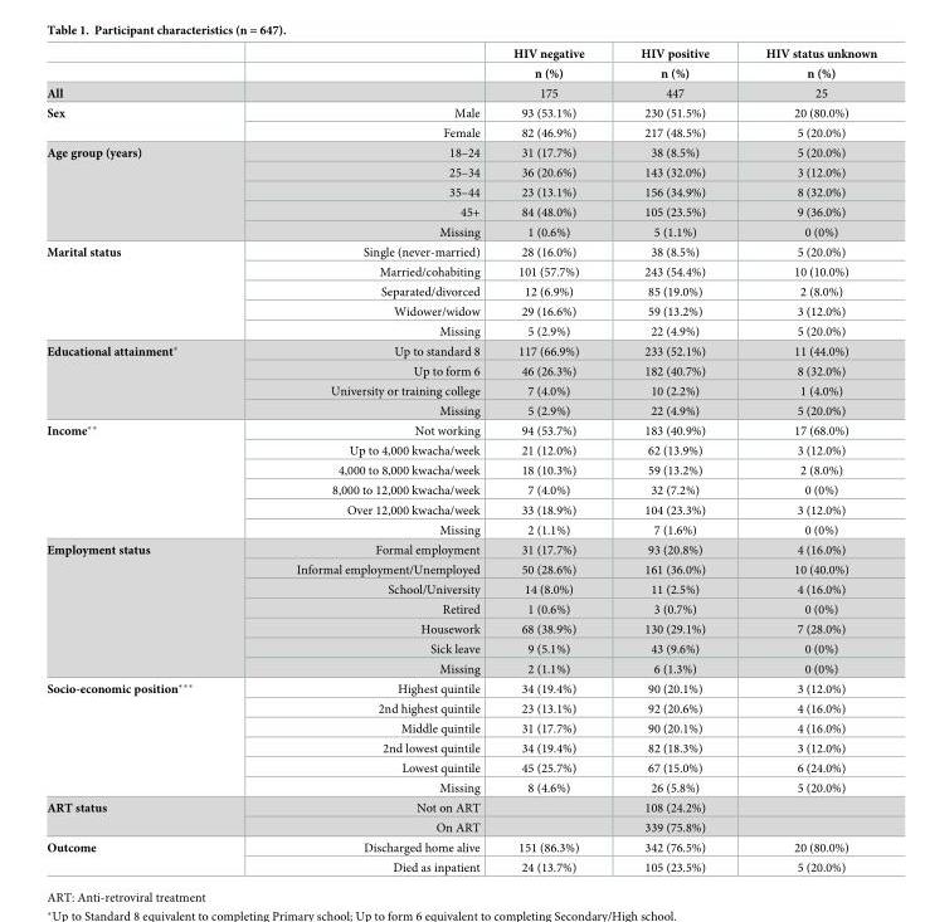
<table><thead><tr><td rowspan="2"></td><td rowspan="2"></td><td rowspan="2">HIV negative n (%)</td><td rowspan="2">HIV positive n (%)</td><td rowspan="2">HIV status unknown n (%)</td></tr><tr></tr></thead><tbody><tr><td>All</td><td></td><td>175</td><td>447</td><td>25</td></tr><tr><td rowspan="2">Sex</td><td>Male</td><td>93 (53.1%)</td><td>230 (51.5%)</td><td>20 (80.0%)</td></tr><tr><td>Female</td><td>82 (46.9%)</td><td>217 (48.5%)</td><td>5 (20.0%)</td></tr><tr><td rowspan="5">Age group (years)</td><td>18–24</td><td>31 (17.7%)</td><td>38 (8.5%)</td><td>5 (20.0%)</td></tr><tr><td>25–34</td><td>36 (20.6%)</td><td>143 (32.0%)</td><td>3 (12.0%)</td></tr><tr><td>35–44</td><td>23 (13.1%)</td><td>156 (34.9%)</td><td>8 (32.0%)</td></tr><tr><td>45+</td><td>84 (48.0%)</td><td>105 (23.5%)</td><td>9 (36.0%)</td></tr><tr><td>Missing</td><td>1 (0.6%)</td><td>5 (1.1%)</td><td>0 (0%)</td></tr><tr><td rowspan="5">Marital status</td><td>Single (never-married)</td><td>28 (16.0%)</td><td>38 (8.5%)</td><td>5 (20.0%)</td></tr><tr><td>Married/cohabiting</td><td>101 (57.7%)</td><td>243 (54.4%)</td><td>10 (10.0%)</td></tr><tr><td>Separated/divorced</td><td>12 (6.9%)</td><td>85 (19.0%)</td><td>2 (8.0%)</td></tr><tr><td>Widower/widow</td><td>29 (16.6%)</td><td>59 (13.2%)</td><td>3 (12.0%)</td></tr><tr><td>Missing</td><td>5 (2.9%)</td><td>22 (4.9%)</td><td>5 (20.0%)</td></tr><tr><td rowspan="4">Educational attainment*</td><td>Up to standard 8</td><td>117 (66.9%)</td><td>233 (52.1%)</td><td>11 (44.0%)</td></tr><tr><td>Up to form 6</td><td>46 (26.3%)</td><td>182 (40.7%)</td><td>8 (32.0%)</td></tr><tr><td>University or training college</td><td>7 (4.0%)</td><td>10 (2.2%)</td><td>1 (4.0%)</td></tr><tr><td>Missing</td><td>5 (2.9%)</td><td>22 (4.9%)</td><td>5 (20.0%)</td></tr><tr><td rowspan="6">Income**</td><td>Not working</td><td>94 (53.7%)</td><td>183 (40.9%)</td><td>17 (68.0%)</td></tr><tr><td>Up to 4,000 kwacha/week</td><td>21 (12.0%)</td><td>62 (13.9%)</td><td>3 (12.0%)</td></tr><tr><td>4,000 to 8,000 kwacha/week</td><td>18 (10.3%)</td><td>59 (13.2%)</td><td>2 (8.0%)</td></tr><tr><td>8,000 to 12,000 kwacha/week</td><td>7 (4.0%)</td><td>32 (7.2%)</td><td>0 (0%)</td></tr><tr><td>Over 12,000 kwacha/week</td><td>33 (18.9%)</td><td>104 (23.3%)</td><td>3 (12.0%)</td></tr><tr><td>Missing</td><td>2 (1.1%)</td><td>7 (1.6%)</td><td>0 (0%)</td></tr><tr><td rowspan="7">Employment status</td><td>Formal employment</td><td>31 (17.7%)</td><td>93 (20.8%)</td><td>4 (16.0%)</td></tr><tr><td>Informal employment/Unemployed</td><td>50 (28.6%)</td><td>161 (36.0%)</td><td>10 (40.0%)</td></tr><tr><td>School/University</td><td>14 (8.0%)</td><td>11 (2.5%)</td><td>4 (16.0%)</td></tr><tr><td>Retired</td><td>1 (0.6%)</td><td>3 (0.7%)</td><td>0 (0%)</td></tr><tr><td>Housework</td><td>68 (38.9%)</td><td>130 (29.1%)</td><td>7 (28.0%)</td></tr><tr><td>Sick leave</td><td>9 (5.1%)</td><td>43 (9.6%)</td><td>0 (0%)</td></tr><tr><td>Missing</td><td>2 (1.1%)</td><td>6 (1.3%)</td><td>0 (0%)</td></tr><tr><td rowspan="6">Socio-economic position***</td><td>Highest quintile</td><td>34 (19.4%)</td><td>90 (20.1%)</td><td>3 (12.0%)</td></tr><tr><td>2nd highest quintile</td><td>23 (13.1%)</td><td>92 (20.6%)</td><td>4 (16.0%)</td></tr><tr><td>Middle quintile</td><td>31 (17.7%)</td><td>90 (20.1%)</td><td>4 (16.0%)</td></tr><tr><td>2nd lowest quintile</td><td>34 (19.4%)</td><td>82 (18.3%)</td><td>3 (12.0%)</td></tr><tr><td>Lowest quintile</td><td>45 (25.7%)</td><td>67 (15.0%)</td><td>6 (24.0%)</td></tr><tr><td>Missing</td><td>8 (4.6%)</td><td>26 (5.8%)</td><td>5 (20.0%)</td></tr><tr><td rowspan="2">ART status</td><td>Not on ART</td><td></td><td>108 (24.2%)</td><td></td></tr><tr><td>On ART</td><td></td><td>339 (75.8%)</td><td></td></tr><tr><td rowspan="2">Outcome</td><td>Discharged home alive</td><td>151 (86.3%)</td><td>342 (76.5%)</td><td>20 (80.0%)</td></tr><tr><td>Died as inpatient</td><td>24 (13.7%)</td><td>105 (23.5%)</td><td>5 (20.0%)</td></tr></tbody></table>